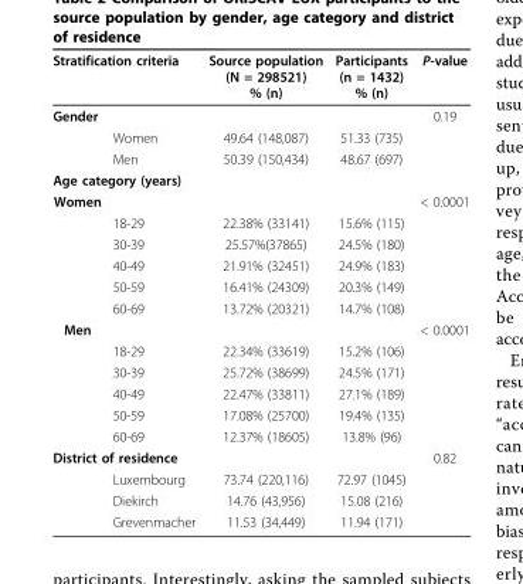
<table><thead><tr><td rowspan="2" colspan="2">Stratification criteria Gender</td><td rowspan="3">Source population (N = 298521) % (n) 49.64 (148,087)</td><td rowspan="3">Participants (n = 1432) % (n) 51.33 (735)</td><td rowspan="3">P-value 0.19</td></tr><tr></tr><tr><td></td><td>Women</td></tr></thead><tbody><tr><td></td><td>Men</td><td>50.39 (150,434)</td><td>48.67 (697)</td><td></td></tr><tr><td colspan="5">Age category (years)</td></tr><tr><td rowspan="6">Women</td><td></td><td></td><td></td><td>&lt; 0.0001</td></tr><tr><td>18-29</td><td>22.38% (33141)</td><td>15.6% (115)</td><td></td></tr><tr><td>30-39</td><td>25.57%(37865)</td><td>24.5% (180)</td><td></td></tr><tr><td>40-49</td><td>21.91% (32451)</td><td>24.9% (183)</td><td></td></tr><tr><td>50-59</td><td>16.41% (24309)</td><td>20.3% (149)</td><td></td></tr><tr><td>60-69</td><td>13.72% (20321)</td><td>14.7% (108)</td><td></td></tr><tr><td rowspan="6">Men</td><td></td><td></td><td></td><td>&lt; 0.0001</td></tr><tr><td>18-29</td><td>22.34% (33619)</td><td>15.2% (106)</td><td></td></tr><tr><td>30-39</td><td>25.72% (38699)</td><td>24.5% (171)</td><td></td></tr><tr><td>40-49</td><td>22.47% (33811)</td><td>27.1% (189)</td><td></td></tr><tr><td>50-59</td><td>17.08% (25700)</td><td>19.4% (135)</td><td></td></tr><tr><td>60-69</td><td>12.37% (18605)</td><td>13.8% (96)</td><td></td></tr><tr><td colspan="2">District of residence</td><td></td><td></td><td>0.82</td></tr><tr><td></td><td>Luxembourg</td><td>73.74 (220,116)</td><td>72.97 (1045)</td><td></td></tr><tr><td></td><td>Diekirch</td><td>14.76 (43,956)</td><td>15.08 (216)</td><td></td></tr><tr><td></td><td>Grevenmacher</td><td>11.53 (34,449)</td><td>11.94 (171)</td><td></td></tr></tbody></table>